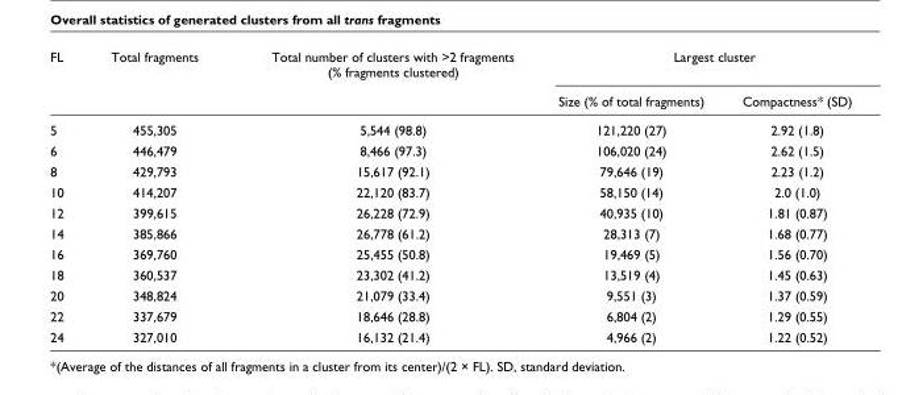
<table><thead><tr><td rowspan="2">FL</td><td rowspan="2">Total fragments</td><td rowspan="2">Total number of clusters with &gt;2 fragments (% fragments clustered)</td><td colspan="2">Largest cluster</td></tr><tr><td>Size (% of total fragments)</td><td>Compactness* (SD)</td></tr></thead><tbody><tr><td>5</td><td>455,305</td><td>5,544 (98.8)</td><td>121,220 (27)</td><td>2.92 (1.8)</td></tr><tr><td>6</td><td>446,479</td><td>8,466 (97.3)</td><td>106,020 (24)</td><td>2.62 (1.5)</td></tr><tr><td>8</td><td>429,793</td><td>15,617 (92.1)</td><td>79,646 (19)</td><td>2.23 (1.2)</td></tr><tr><td>10</td><td>414,207</td><td>22,120 (83.7)</td><td>58,150 (14)</td><td>2.0 (1.0)</td></tr><tr><td>12</td><td>399,615</td><td>26,228 (72.9)</td><td>40,935 (10)</td><td>1.81 (0.87)</td></tr><tr><td>14</td><td>385,866</td><td>26,778 (61.2)</td><td>28,313 (7)</td><td>1.68 (0.77)</td></tr><tr><td>16</td><td>369,760</td><td>25,455 (50.8)</td><td>19,469 (5)</td><td>1.56 (0.70)</td></tr><tr><td>18</td><td>360,537</td><td>23,302 (41.2)</td><td>13,519 (4)</td><td>1.45 (0.63)</td></tr><tr><td>20</td><td>348,824</td><td>21,079 (33.4)</td><td>9,551 (3)</td><td>1.37 (0.59)</td></tr><tr><td>22</td><td>337,679</td><td>18,646 (28.8)</td><td>6,804 (2)</td><td>1.29 (0.55)</td></tr><tr><td>24</td><td>327,010</td><td>16,132 (21.4)</td><td>4,966 (2)</td><td>1.22 (0.52)</td></tr></tbody></table>